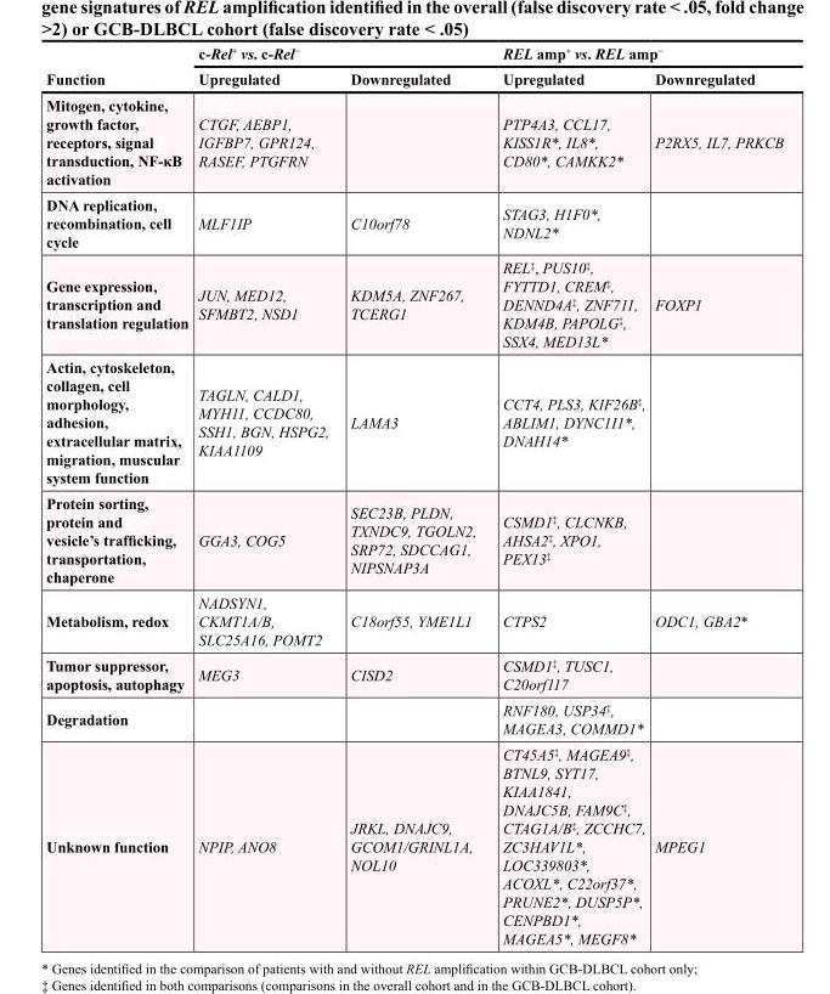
<table><thead><tr><td rowspan="2">Function</td><td colspan="2">c-Rel<sup>+</sup> vs. c-Rel<sup>−</sup></td><td colspan="2">REL amp<sup>+</sup> vs. REL amp<sup>−</sup></td></tr><tr><td>Upregulated</td><td>Downregulated</td><td>Upregulated</td><td>Downregulated</td></tr></thead><tbody><tr><td>Mitogen, cytokine, growth factor, receptors, signal transduction, NF-κB activation</td><td>CTGF, AEBP1, IGFBP7, GPR124, RASEF, PTGFRN</td><td></td><td>PTP4A3, CCL17, KISS1R*, IL8*, CD80*, CAMKK2*</td><td>P2RX5, IL7, PRKCB</td></tr><tr><td>DNA replication, recombination, cell cycle</td><td>MLF1IP</td><td>C10orf78</td><td>STAG3, H1F0*, NDNL2*</td><td></td></tr><tr><td>Gene expression, transcription and translation regulation</td><td>JUN, MED12, SFMBT2, NSD1</td><td>KDM5A, ZNF267, TCERG1</td><td>REL<sup>‡</sup>, PUS10<sup>‡</sup>, FYTTD1, CREM<sup>‡</sup>, DENND4A<sup>‡</sup>, ZNF711, KDM4B, PAPOLG<sup>‡</sup>, SSX4, MED13L*</td><td>FOXP1</td></tr><tr><td>Actin, cytoskeleton, collagen, cell morphology, adhesion, extracellular matrix, migration, muscular system function</td><td>TAGLN, CALD1, MYH11, CCDC80, SSH1, BGN, HSPG2, KIAA1109</td><td>LAMA3</td><td>CCT4, PLS3, KIF26B<sup>‡</sup>, ABLIM1, DYNC1I1*, DNAH14*</td><td></td></tr><tr><td>Protein sorting, protein and vesicle’s trafficking, transportation, chaperone</td><td>GGA3, COG5</td><td>SEC23B, PLDN, TXNDC9, TGOLN2, SRP72, SDCCAG1, NIPSNAP3A</td><td>CSMD1<sup>‡</sup>, CLCNKB, AHSA2<sup>‡</sup>, XPO1, PEX13<sup>‡</sup></td><td></td></tr><tr><td>Metabolism, redox</td><td>NADSYN1, CKMT1A/B, SLC25A16, POMT2</td><td>C18orf55, YME1L1</td><td>CTPS2</td><td>ODC1, GBA2*</td></tr><tr><td>Tumor suppressor, apoptosis, autophagy</td><td>MEG3</td><td>CISD2</td><td>CSMD1<sup>‡</sup>, TUSC1, C20orf117</td><td></td></tr><tr><td>Degradation</td><td></td><td></td><td>RNF180, USP34<sup>‡</sup>, MAGEA3, COMMD1*</td><td></td></tr><tr><td>Unknown function</td><td>NPIP, ANO8</td><td>JRKL, DNAJC9, GCOM1/GRINL1A, NOL10</td><td>CT45A5<sup>‡</sup>, MAGEA9<sup>‡</sup>, BTNL9, SYT17, KIAA1841, DNAJC5B, FAM9C<sup>‡</sup>, CTAG1A/B<sup>‡</sup>, ZCCHC7, ZC3HAV1L*, LOC339803*, ACOXL*, C22orf37*, PRUNE2*, DUSP5P*, CENPBD1*, MAGEA5*, MEGF8*</td><td>MPEG1</td></tr></tbody></table>